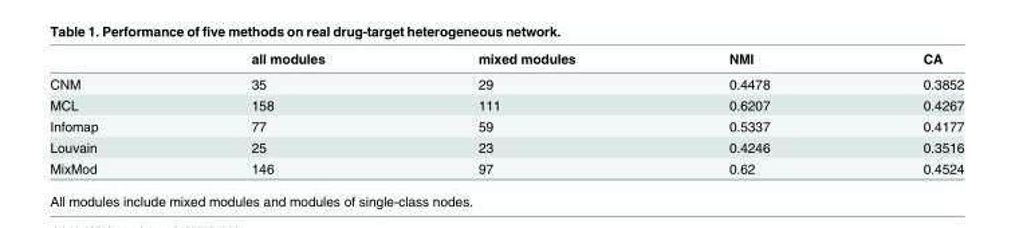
<table><thead><tr><td></td><td>all modules</td><td>mixed modules</td><td>NMI</td><td>CA</td></tr></thead><tbody><tr><td>CNM</td><td>35</td><td>29</td><td>0.4478</td><td>0.3852</td></tr><tr><td>MCL</td><td>158</td><td>111</td><td>0.6207</td><td>0.4267</td></tr><tr><td>Infomap</td><td>77</td><td>59</td><td>0.5337</td><td>0.4177</td></tr><tr><td>Louvain</td><td>25</td><td>23</td><td>0.4246</td><td>0.3516</td></tr><tr><td>MixMod</td><td>146</td><td>97</td><td>0.62</td><td>0.4524</td></tr></tbody></table>